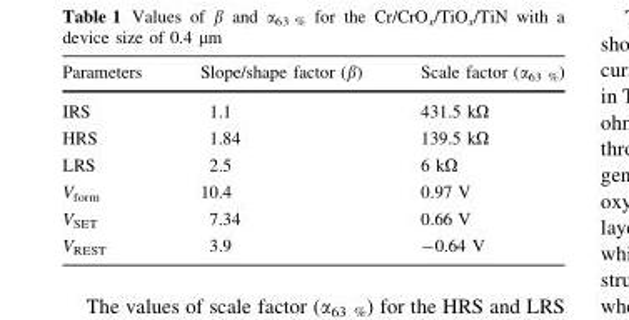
<table><thead><tr><td>Parameters</td><td>Slope/shape factor (β)</td><td>Scale factor (α<sub>63 %</sub>)</td></tr></thead><tbody><tr><td>IRS</td><td>1.1</td><td>431.5 kΩ</td></tr><tr><td>HRS</td><td>1.84</td><td>139.5 kΩ</td></tr><tr><td>LRS</td><td>2.5</td><td>6 kΩ</td></tr><tr><td>V<sub>form</sub></td><td>10.4</td><td>0.97 V</td></tr><tr><td>V<sub>SET</sub></td><td>7.34</td><td>0.66 V</td></tr><tr><td>V<sub>REST</sub></td><td>3.9</td><td>-0.64 V</td></tr></tbody></table>